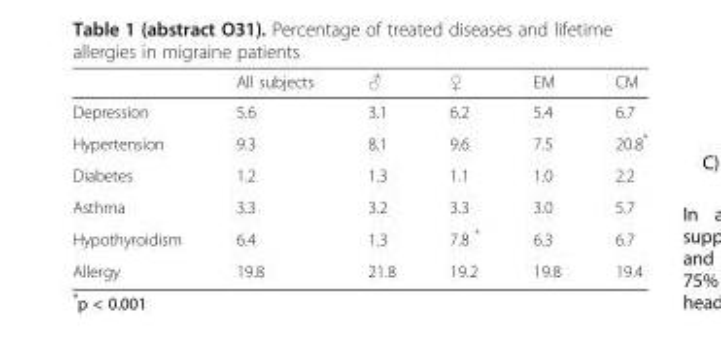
<table><thead><tr><td></td><td>All subjects</td><td>♂</td><td>♀</td><td>EM</td><td>CM</td></tr></thead><tbody><tr><td>Depression</td><td>5.6</td><td>3.1</td><td>6.2</td><td>5.4</td><td>6.7</td></tr><tr><td>Hypertension</td><td>9.3</td><td>8.1</td><td>9.6</td><td>7.5</td><td>20.8*</td></tr><tr><td>Diabetes</td><td>1.2</td><td>1.3</td><td>1.1</td><td>1.0</td><td>2.2</td></tr><tr><td>Asthma</td><td>3.3</td><td>3.2</td><td>3.3</td><td>3.0</td><td>5.7</td></tr><tr><td>Hypothyroidism</td><td>6.4</td><td>1.3</td><td>7.8 *</td><td>6.3</td><td>6.7</td></tr><tr><td>Allergy</td><td>19.8</td><td>21.8</td><td>19.2</td><td>19.8</td><td>19.4</td></tr></tbody></table>